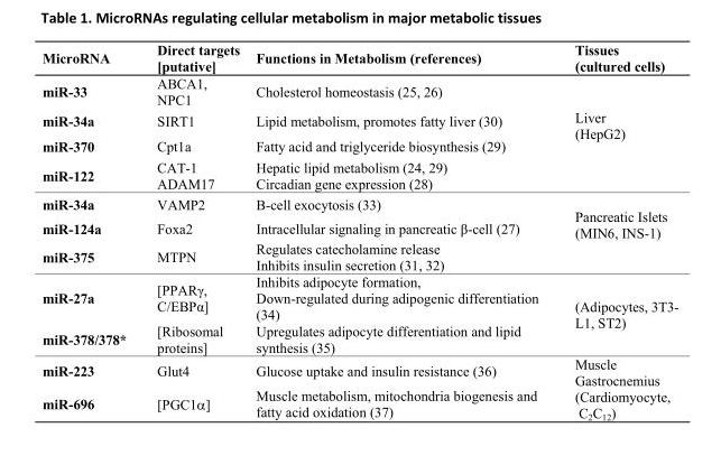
<table><thead><tr><td>MicroRNA</td><td>Direct targets [putative]</td><td>Functions in Metabolism (references)</td><td>Tissues (cultured cells)</td></tr></thead><tbody><tr><td>miR-33</td><td>ABCA1, NPC1</td><td>Cholesterol homeostasis (25, 26)</td><td rowspan="4">Liver (HepG2)</td></tr><tr><td>miR-34a</td><td>SIRT1</td><td>Lipid metabolism, promotes fatty liver (30)</td></tr><tr><td>miR-370</td><td>Cpt1a</td><td>Fatty acid and triglyceride biosynthesis (29)</td></tr><tr><td>miR-122</td><td>CAT-1 ADAM17</td><td>Hepatic lipid metabolism (24, 29) Circadian gene expression (28)</td></tr><tr><td>miR-34a</td><td>VAMP2</td><td>B-cell exocytosis (33)</td><td rowspan="3">Pancreatic Islets (MIN6, INS-1)</td></tr><tr><td>miR-124a</td><td>Foxa2</td><td>Intracellular signaling in pancreatic β-cell (27)</td></tr><tr><td>miR-375</td><td>MTPN</td><td>Regulates catecholamine release Inhibits insulin secretion (31, 32)</td></tr><tr><td>miR-27a</td><td>[PPARγ, C/EBPα]</td><td>Inhibits adipocyte formation, Down-regulated during adipogenic differentiation (34)</td><td rowspan="2">(Adipocytes, 3T3- L1, ST2)</td></tr><tr><td>miR-378/378*</td><td>[Ribosomal proteins]</td><td>Upregulates adipocyte differentiation and lipid synthesis (35)</td></tr><tr><td>miR-223</td><td>Glut4</td><td>Glucose uptake and insulin resistance (36)</td><td rowspan="2">Muscle Gastrocnemius (Cardiomyocyte, C<sub>2</sub>C<sub>12</sub>)</td></tr><tr><td>miR-696</td><td>[PGC1α]</td><td>Muscle metabolism, mitochondria biogenesis and fatty acid oxidation (37)</td></tr></tbody></table>